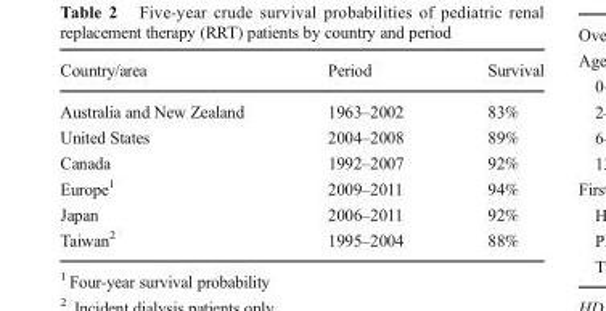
<table><thead><tr><td>Country/area</td><td>Period</td><td>Survival</td></tr></thead><tbody><tr><td>Australia and New Zealand</td><td>1963–2002</td><td>83%</td></tr><tr><td>United States</td><td>2004–2008</td><td>89%</td></tr><tr><td>Canada</td><td>1992–2007</td><td>92%</td></tr><tr><td>Europe<sup>1</sup></td><td>2009–2011</td><td>94%</td></tr><tr><td>Japan</td><td>2006–2011</td><td>92%</td></tr><tr><td>Taiwan<sup>2</sup></td><td>1995–2004</td><td>88%</td></tr></tbody></table>